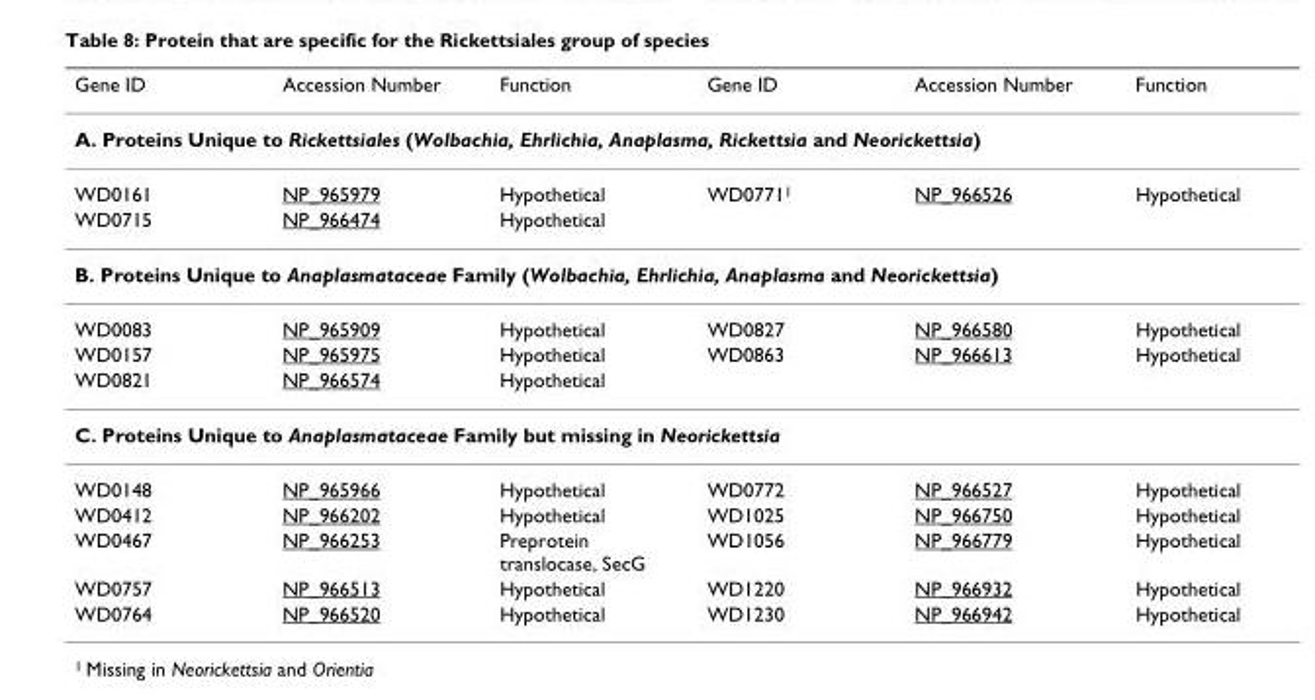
<table><thead><tr><td>Gene ID</td><td>Accession Number</td><td>Function</td><td>Gene ID</td><td>Accession Number</td><td>Function</td></tr></thead><tbody><tr><td colspan="6">A. Proteins Unique to Rickettsiales (Wolbachia, Ehrlichia, Anaplasma, Rickettsia and Neorickettsia)</td></tr><tr><td>WD0161</td><td>NP_965979</td><td>Hypothetical</td><td>WD0771<sup>1</sup></td><td>NP_966526</td><td>Hypothetical</td></tr><tr><td>WD0715</td><td>NP_966474</td><td>Hypothetical</td><td></td><td></td><td></td></tr><tr><td colspan="6">B. Proteins Unique to Anaplasmataceae Family (Wolbachia, Ehrlichia, Anaplasma and Neorickettsia)</td></tr><tr><td>WD0083</td><td>NP_965909</td><td>Hypothetical</td><td>WD0827</td><td>NP_966580</td><td>Hypothetical</td></tr><tr><td>WD0157</td><td>NP_965975</td><td>Hypothetical</td><td>WD0863</td><td>NP_966613</td><td>Hypothetical</td></tr><tr><td>WD0821</td><td>NP_966574</td><td>Hypothetical</td><td></td><td></td><td></td></tr><tr><td colspan="6">C. Proteins Unique to Anaplasmataceae Family but missing in Neorickettsia</td></tr><tr><td>WD0148</td><td>NP_965966</td><td>Hypothetical</td><td>WD0772</td><td>NP_966527</td><td>Hypothetical</td></tr><tr><td>WD0412</td><td>NP_966202</td><td>Hypothetical</td><td>WD1025</td><td>NP_966750</td><td>Hypothetical</td></tr><tr><td>WD0467</td><td>NP_966253</td><td>Preprotein translocase, SecG</td><td>WD1056</td><td>NP_966779</td><td>Hypothetical</td></tr><tr><td>WD0757</td><td>NP_966513</td><td>Hypothetical</td><td>WD1220</td><td>NP_966932</td><td>Hypothetical</td></tr><tr><td>WD0764</td><td>NP_966520</td><td>Hypothetical</td><td>WD1230</td><td>NP_966942</td><td>Hypothetical</td></tr></tbody></table>